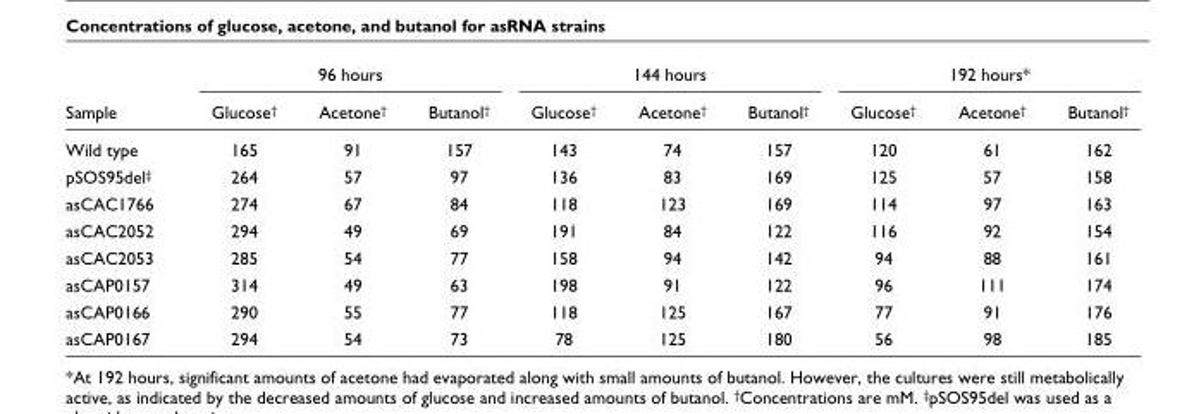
<table><thead><tr><td rowspan="2">Sample</td><td colspan="3">96 hours</td><td colspan="3">144 hours</td><td colspan="3">192 hours*</td></tr><tr><td>Glucose<sup>†</sup></td><td>Acetone<sup>†</sup></td><td>Butanol<sup>†</sup></td><td>Glucose<sup>†</sup></td><td>Acetone<sup>†</sup></td><td>Butanol<sup>†</sup></td><td>Glucose<sup>†</sup></td><td>Acetone<sup>†</sup></td><td>Butanol<sup>†</sup></td></tr></thead><tbody><tr><td>Wild type</td><td>165</td><td>91</td><td>157</td><td>143</td><td>74</td><td>157</td><td>120</td><td>61</td><td>162</td></tr><tr><td>pSOS95del<sup>‡</sup></td><td>264</td><td>57</td><td>97</td><td>136</td><td>83</td><td>169</td><td>125</td><td>57</td><td>158</td></tr><tr><td>asCAC1766</td><td>274</td><td>67</td><td>84</td><td>118</td><td>123</td><td>169</td><td>114</td><td>97</td><td>163</td></tr><tr><td>asCAC2052</td><td>294</td><td>49</td><td>69</td><td>191</td><td>84</td><td>122</td><td>116</td><td>92</td><td>154</td></tr><tr><td>asCAC2053</td><td>285</td><td>54</td><td>77</td><td>158</td><td>94</td><td>142</td><td>94</td><td>88</td><td>161</td></tr><tr><td>asCAP0157</td><td>314</td><td>49</td><td>63</td><td>198</td><td>91</td><td>122</td><td>96</td><td>111</td><td>174</td></tr><tr><td>asCAP0166</td><td>290</td><td>55</td><td>77</td><td>118</td><td>125</td><td>167</td><td>77</td><td>91</td><td>176</td></tr><tr><td>asCAP0167</td><td>294</td><td>54</td><td>73</td><td>78</td><td>125</td><td>180</td><td>56</td><td>98</td><td>185</td></tr></tbody></table>